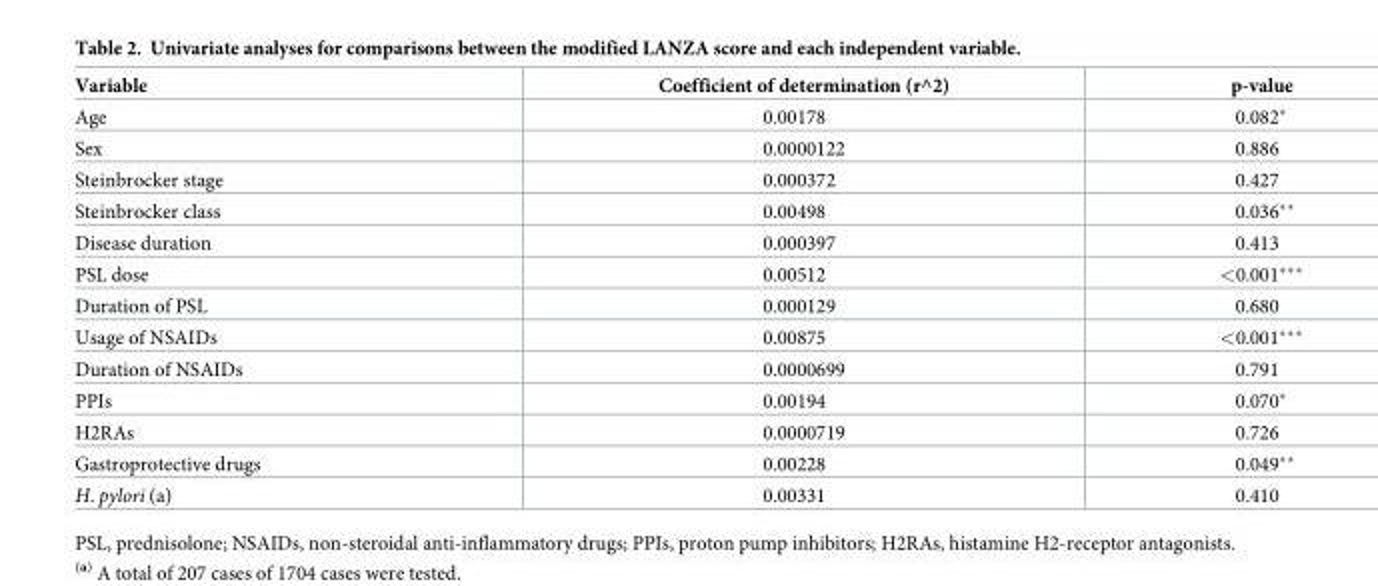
<table><thead><tr><td>Variable</td><td>Coefficient of determination (r^2)</td><td>p-value</td></tr></thead><tbody><tr><td>Age</td><td>0.00178</td><td>0.082*</td></tr><tr><td>Sex</td><td>0.0000122</td><td>0.886</td></tr><tr><td>Steinbrocker stage</td><td>0.000372</td><td>0.427</td></tr><tr><td>Steinbrocker class</td><td>0.00498</td><td>0.036**</td></tr><tr><td>Disease duration</td><td>0.000397</td><td>0.413</td></tr><tr><td>PSL dose</td><td>0.00512</td><td>&lt;0.001***</td></tr><tr><td>Duration of PSL</td><td>0.000129</td><td>0.680</td></tr><tr><td>Usage of NSAIDs</td><td>0.00875</td><td>&lt;0.001***</td></tr><tr><td>Duration of NSAIDs</td><td>0.0000699</td><td>0.791</td></tr><tr><td>PPIs</td><td>0.00194</td><td>0.070*</td></tr><tr><td>H2RAs</td><td>0.0000719</td><td>0.726</td></tr><tr><td>Gastroprotective drugs</td><td>0.00228</td><td>0.049**</td></tr><tr><td>H. pylori (a)</td><td>0.00331</td><td>0.410</td></tr></tbody></table>